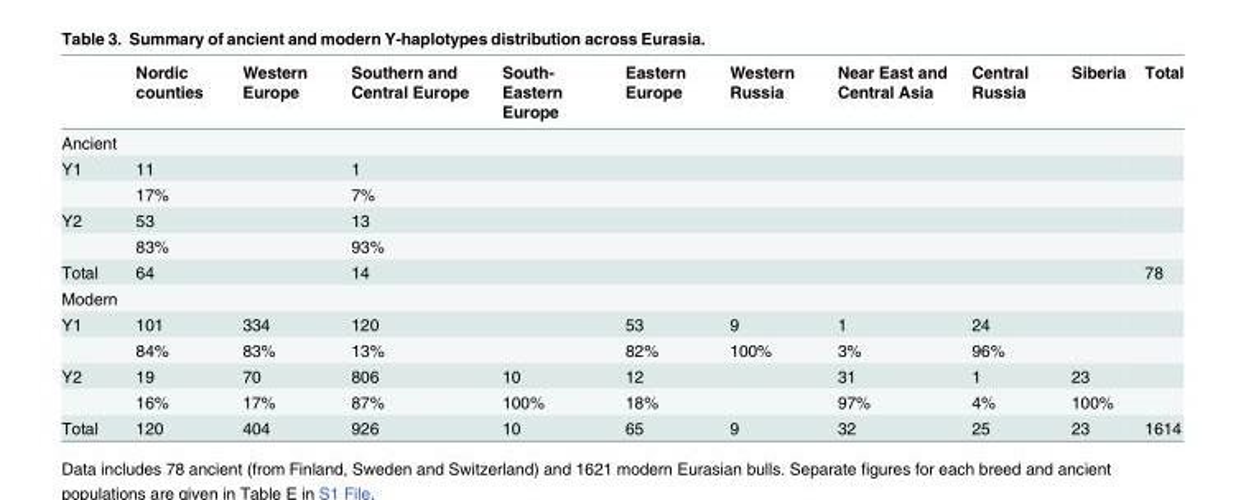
<table><thead><tr><td></td><td>Nordic counties</td><td>Western Europe</td><td>Southern and Central Europe</td><td>South- Eastern Europe</td><td>Eastern Europe</td><td>Western Russia</td><td>Near East and Central Asia</td><td>Central Russia</td><td>Siberia</td><td>Total</td></tr></thead><tbody><tr><td colspan="11">Ancient</td></tr><tr><td rowspan="2">Y1</td><td>11</td><td></td><td>1</td><td></td><td></td><td></td><td></td><td></td><td></td><td></td></tr><tr><td>17%</td><td></td><td>7%</td><td></td><td></td><td></td><td></td><td></td><td></td><td></td></tr><tr><td rowspan="2">Y2</td><td>53</td><td></td><td>13</td><td></td><td></td><td></td><td></td><td></td><td></td><td></td></tr><tr><td>83%</td><td></td><td>93%</td><td></td><td></td><td></td><td></td><td></td><td></td><td></td></tr><tr><td>Total</td><td>64</td><td></td><td>14</td><td></td><td></td><td></td><td></td><td></td><td></td><td>78</td></tr><tr><td colspan="11">Modern</td></tr><tr><td rowspan="2">Y1</td><td>101</td><td>334</td><td>120</td><td></td><td>53</td><td>9</td><td>1</td><td>24</td><td></td><td></td></tr><tr><td>84%</td><td>83%</td><td>13%</td><td></td><td>82%</td><td>100%</td><td>3%</td><td>96%</td><td></td><td></td></tr><tr><td rowspan="2">Y2</td><td>19</td><td>70</td><td>806</td><td>10</td><td>12</td><td></td><td>31</td><td>1</td><td>23</td><td></td></tr><tr><td>16%</td><td>17%</td><td>87%</td><td>100%</td><td>18%</td><td></td><td>97%</td><td>4%</td><td>100%</td><td></td></tr><tr><td>Total</td><td>120</td><td>404</td><td>926</td><td>10</td><td>65</td><td>9</td><td>32</td><td>25</td><td>23</td><td>1614</td></tr></tbody></table>